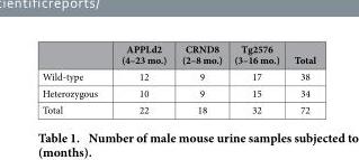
<table><thead><tr><td></td><td>APPLd2 (4–23 mo.)</td><td>CRND8 (2–8 mo.)</td><td>Tg2576 (3–16 mo.)</td><td>Total</td></tr></thead><tbody><tr><td>Wild-type</td><td>12</td><td>9</td><td>17</td><td>38</td></tr><tr><td>Heterozygous</td><td>10</td><td>9</td><td>15</td><td>34</td></tr><tr><td>Total</td><td>22</td><td>18</td><td>32</td><td>72</td></tr></tbody></table>